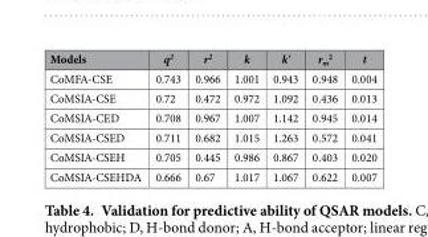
<table><thead><tr><td>Models</td><td>q<sup>2</sup></td><td>r<sup>2</sup></td><td>k</td><td>k&#x27;</td><td>r<sub>m</sub> <sup>2</sup></td><td>t</td></tr></thead><tbody><tr><td>CoMFA-CSE</td><td>0.743</td><td>0.966</td><td>1.001</td><td>0.943</td><td>0.948</td><td>0.004</td></tr><tr><td>CoMSIA-CSE</td><td>0.72</td><td>0.472</td><td>0.972</td><td>1.092</td><td>0.436</td><td>0.013</td></tr><tr><td>CoMSIA-CED</td><td>0.708</td><td>0.967</td><td>1.007</td><td>1.142</td><td>0.945</td><td>0.014</td></tr><tr><td>CoMSIA-CSED</td><td>0.711</td><td>0.682</td><td>1.015</td><td>1.263</td><td>0.572</td><td>0.041</td></tr><tr><td>CoMSIA-CSEH</td><td>0.705</td><td>0.445</td><td>0.986</td><td>0.867</td><td>0.403</td><td>0.020</td></tr><tr><td>CoMSIA-CSEHDA</td><td>0.666</td><td>0.67</td><td>1.017</td><td>1.067</td><td>0.622</td><td>0.007</td></tr></tbody></table>